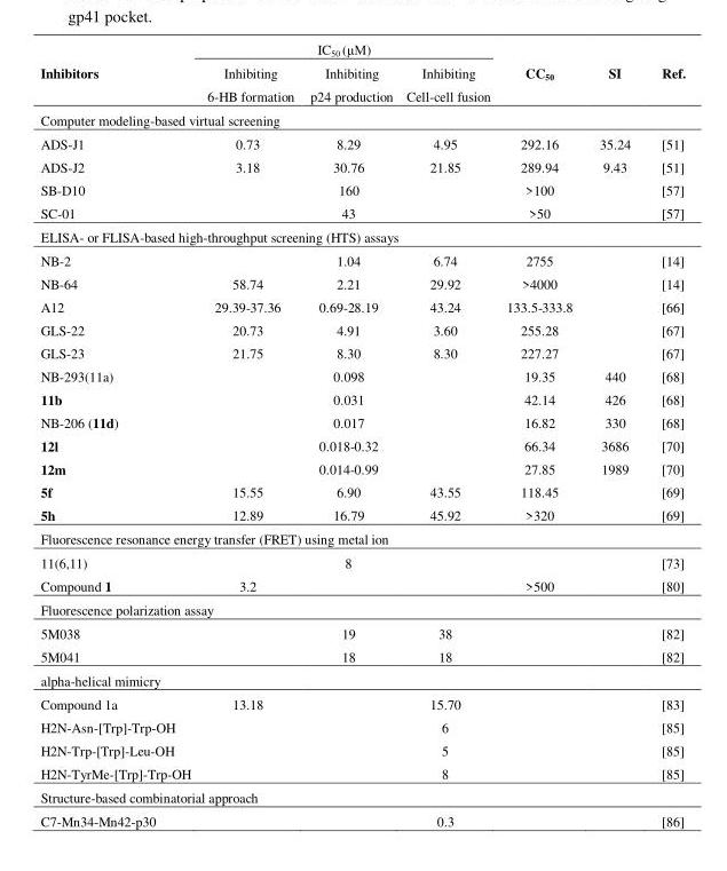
<table><thead><tr><td rowspan="2">Inhibitors</td><td colspan="3">IC<sub>50</sub> (μM)</td><td rowspan="2">CC<sub>50</sub></td><td rowspan="2">SI</td><td rowspan="2">Ref.</td></tr><tr><td>Inhibiting 6-HB formation</td><td>Inhibiting p24 production</td><td>Inhibiting Cell-cell fusion</td></tr></thead><tbody><tr><td colspan="7">Computer modeling-based virtual screening</td></tr><tr><td>ADS-J1</td><td>0.73</td><td>8.29</td><td>4.95</td><td>292.16</td><td>35.24</td><td>[51]</td></tr><tr><td>ADS-J2</td><td>3.18</td><td>30.76</td><td>21.85</td><td>289.94</td><td>9.43</td><td>[51]</td></tr><tr><td>SB-D10</td><td></td><td>160</td><td></td><td>&gt;100</td><td></td><td>[57]</td></tr><tr><td>SC-01</td><td></td><td>43</td><td></td><td>&gt;50</td><td></td><td>[57]</td></tr><tr><td colspan="7">ELISA- or FLISA-based high-throughput screening (HTS) assays</td></tr><tr><td>NB-2</td><td></td><td>1.04</td><td>6.74</td><td>2755</td><td></td><td>[14]</td></tr><tr><td>NB-64</td><td>58.74</td><td>2.21</td><td>29.92</td><td>&gt;4000</td><td></td><td>[14]</td></tr><tr><td>A12</td><td>29.39-37.36</td><td>0.69-28.19</td><td>43.24</td><td>133.5-333.8</td><td></td><td>[66]</td></tr><tr><td>GLS-22</td><td>20.73</td><td>4.91</td><td>3.60</td><td>255.28</td><td></td><td>[67]</td></tr><tr><td>GLS-23</td><td>21.75</td><td>8.30</td><td>8.30</td><td>227.27</td><td></td><td>[67]</td></tr><tr><td>NB-293(11a)</td><td></td><td>0.098</td><td></td><td>19.35</td><td>440</td><td>[68]</td></tr><tr><td>11b</td><td></td><td>0.031</td><td></td><td>42.14</td><td>426</td><td>[68]</td></tr><tr><td>NB-206 (11d)</td><td></td><td>0.017</td><td></td><td>16.82</td><td>330</td><td>[68]</td></tr><tr><td>12l</td><td></td><td>0.018-0.32</td><td></td><td>66.34</td><td>3686</td><td>[70]</td></tr><tr><td>12m</td><td></td><td>0.014-0.99</td><td></td><td>27.85</td><td>1989</td><td>[70]</td></tr><tr><td>5f</td><td>15.55</td><td>6.90</td><td>43.55</td><td>118.45</td><td></td><td>[69]</td></tr><tr><td>5h</td><td>12.89</td><td>16.79</td><td>45.92</td><td>&gt;320</td><td></td><td>[69]</td></tr><tr><td colspan="7">Fluorescence resonance energy transfer (FRET) using metal ion</td></tr><tr><td>11(6,11)</td><td></td><td>8</td><td></td><td></td><td></td><td>[73]</td></tr><tr><td>Compound 1</td><td>3.2</td><td></td><td></td><td>&gt;500</td><td></td><td>[80]</td></tr><tr><td colspan="7">Fluorescence polarization assay</td></tr><tr><td>5M038</td><td></td><td>19</td><td>38</td><td></td><td></td><td>[82]</td></tr><tr><td>5M041</td><td></td><td>18</td><td>18</td><td></td><td></td><td>[82]</td></tr><tr><td colspan="7">alpha-helical mimicry</td></tr><tr><td>Compound 1a</td><td>13.18</td><td></td><td>15.70</td><td></td><td></td><td>[83]</td></tr><tr><td>H2N-Asn-[Trp]-Trp-OH</td><td></td><td></td><td>6</td><td></td><td></td><td>[85]</td></tr><tr><td>H2N-Trp-[Trp]-Leu-OH</td><td></td><td></td><td>5</td><td></td><td></td><td>[85]</td></tr><tr><td>H2N-TyrMe-[Trp]-Trp-OH</td><td></td><td></td><td>8</td><td></td><td></td><td>[85]</td></tr><tr><td colspan="7">Structure-based combinatorial approach</td></tr><tr><td>C7-Mn34-Mn42-p30</td><td></td><td></td><td>0.3</td><td></td><td></td><td>[86]</td></tr></tbody></table>